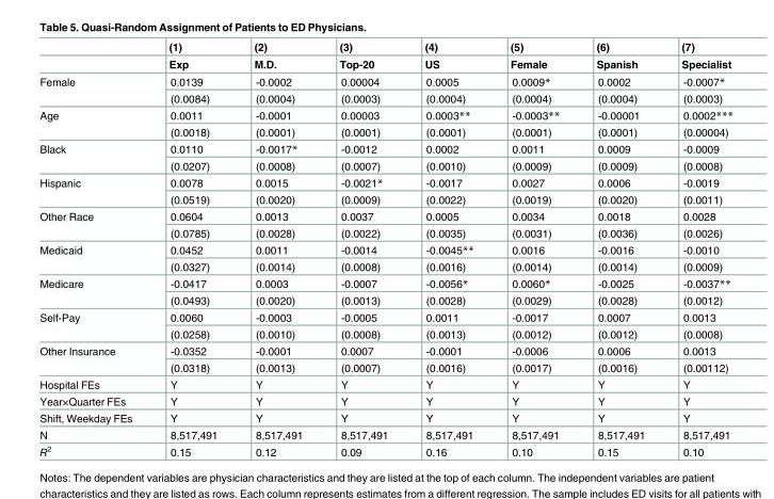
<table><thead><tr><td rowspan="2"></td><td rowspan="2">(1) Exp</td><td rowspan="2">(2) M.D.</td><td rowspan="2">(3) Top-20</td><td rowspan="2">(4) US</td><td rowspan="2">(5) Female</td><td rowspan="2">(6) Spanish</td><td rowspan="2">(7) Specialist</td></tr><tr></tr></thead><tbody><tr><td rowspan="2">Female</td><td>0.0139</td><td>-0.0002</td><td>0.00004</td><td>0.0005</td><td>0.0009*</td><td>0.0002</td><td>-0.0007*</td></tr><tr><td>(0.0084)</td><td>(0.0004)</td><td>(0.0003)</td><td>(0.0004)</td><td>(0.0004)</td><td>(0.0004)</td><td>(0.0003)</td></tr><tr><td rowspan="2">Age</td><td>0.0011</td><td>-0.0001</td><td>0.00003</td><td>0.0003**</td><td>-0.0003**</td><td>-0.00001</td><td>0.0002***</td></tr><tr><td>(0.0018)</td><td>(0.0001)</td><td>(0.0001)</td><td>(0.0001)</td><td>(0.0001)</td><td>(0.0001)</td><td>(0.00004)</td></tr><tr><td rowspan="2">Black</td><td>0.0110</td><td>-0.0017*</td><td>-0.0012</td><td>0.0002</td><td>0.0011</td><td>0.0009</td><td>-0.0009</td></tr><tr><td>(0.0207)</td><td>(0.0008)</td><td>(0.0007)</td><td>(0.0010)</td><td>(0.0009)</td><td>(0.0009)</td><td>(0.0008)</td></tr><tr><td rowspan="2">Hispanic</td><td>0.0078</td><td>0.0015</td><td>-0.0021*</td><td>-0.0017</td><td>0.0027</td><td>0.0006</td><td>-0.0019</td></tr><tr><td>(0.0519)</td><td>(0.0020)</td><td>(0.0009)</td><td>(0.0022)</td><td>(0.0019)</td><td>(0.0020)</td><td>(0.0011)</td></tr><tr><td rowspan="2">Other Race</td><td>0.0604</td><td>0.0013</td><td>0.0037</td><td>0.0005</td><td>0.0034</td><td>0.0018</td><td>0.0028</td></tr><tr><td>(0.0785)</td><td>(0.0028)</td><td>(0.0022)</td><td>(0.0035)</td><td>(0.0031)</td><td>(0.0036)</td><td>(0.0026)</td></tr><tr><td rowspan="2">Medicaid</td><td>0.0452</td><td>0.0011</td><td>-0.0014</td><td>-0.0045**</td><td>0.0016</td><td>-0.0016</td><td>-0.0010</td></tr><tr><td>(0.0327)</td><td>(0.0014)</td><td>(0.0008)</td><td>(0.0016)</td><td>(0.0014)</td><td>(0.0014)</td><td>(0.0009)</td></tr><tr><td rowspan="2">Medicare</td><td>-0.0417</td><td>0.0003</td><td>-0.0007</td><td>-0.0056*</td><td>0.0060*</td><td>-0.0025</td><td>-0.0037**</td></tr><tr><td>(0.0493)</td><td>(0.0020)</td><td>(0.0013)</td><td>(0.0028)</td><td>(0.0029)</td><td>(0.0028)</td><td>(0.0012)</td></tr><tr><td rowspan="2">Self-Pay</td><td>0.0060</td><td>-0.0003</td><td>-0.0005</td><td>0.0011</td><td>-0.0017</td><td>0.0007</td><td>0.0013</td></tr><tr><td>(0.0258)</td><td>(0.0010)</td><td>(0.0008)</td><td>(0.0013)</td><td>(0.0012)</td><td>(0.0012)</td><td>(0.0008)</td></tr><tr><td rowspan="2">Other Insurance</td><td>-0.0352</td><td>-0.0001</td><td>0.0007</td><td>-0.0001</td><td>-0.0006</td><td>0.0006</td><td>0.0013</td></tr><tr><td>(0.0318)</td><td>(0.0013)</td><td>(0.0007)</td><td>(0.0016)</td><td>(0.0017)</td><td>(0.0016)</td><td>(0.00112)</td></tr><tr><td>Hospital FEs</td><td>Y</td><td>Y</td><td>Y</td><td>Y</td><td>Y</td><td>Y</td><td>Y</td></tr><tr><td>Year×Quarter FEs</td><td>Y</td><td>Y</td><td>Y</td><td>Y</td><td>Y</td><td>Y</td><td>Y</td></tr><tr><td>Shift, Weekday FEs</td><td>Y</td><td>Y</td><td>Y</td><td>Y</td><td>Y</td><td>Y</td><td>Y</td></tr><tr><td>N</td><td>8,517,491</td><td>8,517,491</td><td>8,517,491</td><td>8,517,491</td><td>8,517,491</td><td>8,517,491</td><td>8,517,491</td></tr><tr><td>R<sup>2</sup></td><td>0.15</td><td>0.12</td><td>0.09</td><td>0.16</td><td>0.10</td><td>0.15</td><td>0.10</td></tr></tbody></table>